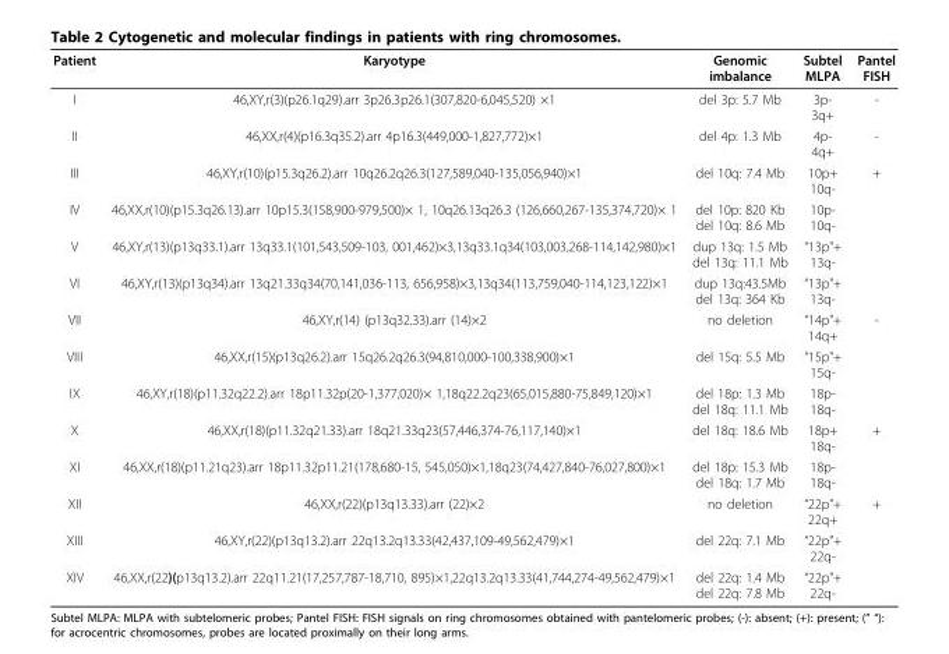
<table><thead><tr><td>Patient</td><td>Karyotype</td><td>Genomic imbalance</td><td>Subtel MLPA</td><td>Pantel FISH</td></tr></thead><tbody><tr><td>I</td><td>46,XY,r(3)(p26.1q29).arr 3p26.3p26.1(307,820-6,045,520) ×1</td><td>del 3p: 5.7 Mb</td><td>3p- 3q+</td><td>-</td></tr><tr><td>II</td><td>46,XX,r(4)(p16.3q35.2).arr 4p16.3(449,000-1,827,772)×1</td><td>del 4p: 1.3 Mb</td><td>4p- 4q+</td><td>-</td></tr><tr><td>III</td><td>46,XY,r(10)(p15.3q26.2).arr 10q26.2q26.3(127,589,040-135,056,940)×1</td><td>del 10q: 7.4 Mb</td><td>10p+ 10q-</td><td>+</td></tr><tr><td>IV</td><td>46,XX,r(10)(p15.3q26.13).arr 10p15.3(158,900-979,500)× 1, 10q26.13q26.3 (126,660,267-135,374,720)× 1</td><td>del 10p: 820 Kb del 10q: 8.6 Mb</td><td>10p- 10q-</td><td></td></tr><tr><td>V</td><td>46,XY,r(13)(p13q33.1).arr 13q33.1(101,543,509-103, 001,462)×3,13q33.1q34(103,003,268-114,142,980)×1</td><td>dup 13q: 1.5 Mb del 13q: 11.1 Mb</td><td>“13p&quot;+ 13q-</td><td></td></tr><tr><td>VI</td><td>46,XY,r(13)(p13q34).arr 13q21.33q34(70,141,036-113, 656,958)×3,13q34(113,759,040-114,123,122)×1</td><td>dup 13q:43.5Mb del 13q: 364 Kb</td><td>“13p&quot;+ 13q-</td><td></td></tr><tr><td>VII</td><td>46,XY,r(14) (p13q32.33).arr (14)×2</td><td>no deletion</td><td>“14p&quot;+ 14q+</td><td>-</td></tr><tr><td>VIII</td><td>46,XX,r(15)(p13q26.2).arr 15q26.2q26.3(94,810,000-100,338,900)×1</td><td>del 15q: 5.5 Mb</td><td>“15p&quot;+ 15q-</td><td></td></tr><tr><td>IX</td><td>46,XY,r(18)(p11.32q22.2).arr 18p11.32p(20-1,377,020)× 1,18q22.2q23(65,015,880-75,849,120)×1</td><td>del 18p: 1.3 Mb del 18q: 11.1 Mb</td><td>18p- 18q-</td><td></td></tr><tr><td>X</td><td>46,XX,r(18)(p11.32q21.33).arr 18q21.33q23(57,446,374-76,117,140)×1</td><td>del 18q: 18.6 Mb</td><td>18p+ 18q-</td><td>+</td></tr><tr><td>XI</td><td>46,XX,r(18)(p11.21q23).arr 18p11.32p11.21(178,680-15, 545,050)×1,18q23(74,427,840-76,027,800)×1</td><td>del 18p: 15.3 Mb del 18q: 1.7 Mb</td><td>18p- 18q-</td><td></td></tr><tr><td>XII</td><td>46,XX,r(22)(p13q13.33).arr (22)×2</td><td>no deletion</td><td>“22p&quot;+ 22q+</td><td>+</td></tr><tr><td>XIII</td><td>46,XY,r(22)(p13q13.2).arr 22q13.2q13.33(42,437,109-49,562,479)×1</td><td>del 22q: 7.1 Mb</td><td>“22p&quot;+ 22q-</td><td></td></tr><tr><td>XIV</td><td>46,XX,r(22)(p13q13.2).arr 22q11.21(17,257,787-18,710, 895)×1,22q13.2q13.33(41,744,274-49,562,479)×1</td><td>del 22q: 1.4 Mb del 22q: 7.8 Mb</td><td>“22p&quot;+ 22q-</td><td></td></tr></tbody></table>